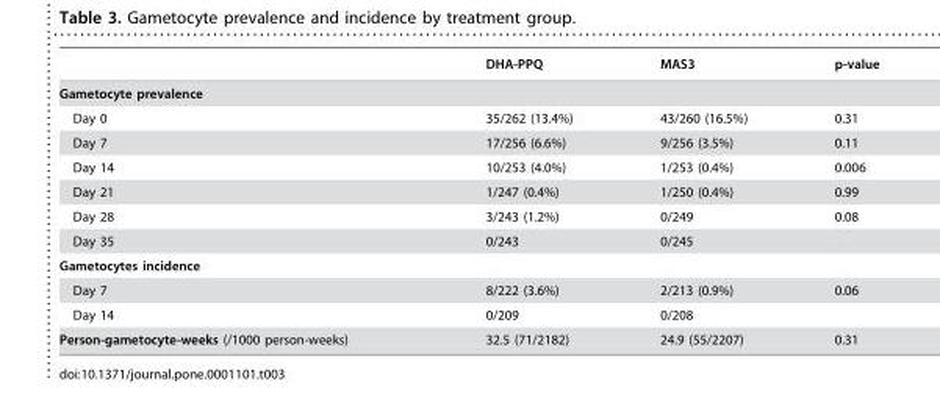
<table><thead><tr><td></td><td>DHA-PPQ</td><td>MAS3</td><td>p-value</td></tr></thead><tbody><tr><td colspan="4">Gametocyte prevalence</td></tr><tr><td>Day 0</td><td>35/262 (13.4%)</td><td>43/260 (16.5%)</td><td>0.31</td></tr><tr><td>Day 7</td><td>17/256 (6.6%)</td><td>9/256 (3.5%)</td><td>0.11</td></tr><tr><td>Day 14</td><td>10/253 (4.0%)</td><td>1/253 (0.4%)</td><td>0.006</td></tr><tr><td>Day 21</td><td>1/247 (0.4%)</td><td>1/250 (0.4%)</td><td>0.99</td></tr><tr><td>Day 28</td><td>3/243 (1.2%)</td><td>0/249</td><td>0.08</td></tr><tr><td>Day 35</td><td>0/243</td><td>0/245</td><td></td></tr><tr><td colspan="4">Gametocytes incidence</td></tr><tr><td>Day 7</td><td>8/222 (3.6%)</td><td>2/213 (0.9%)</td><td>0.06</td></tr><tr><td>Day 14</td><td>0/209</td><td>0/208</td><td></td></tr><tr><td>Person-gametocyte-weeks (/1000 person-weeks)</td><td>32.5 (71/2182)</td><td>24.9 (55/2207)</td><td>0.31</td></tr></tbody></table>